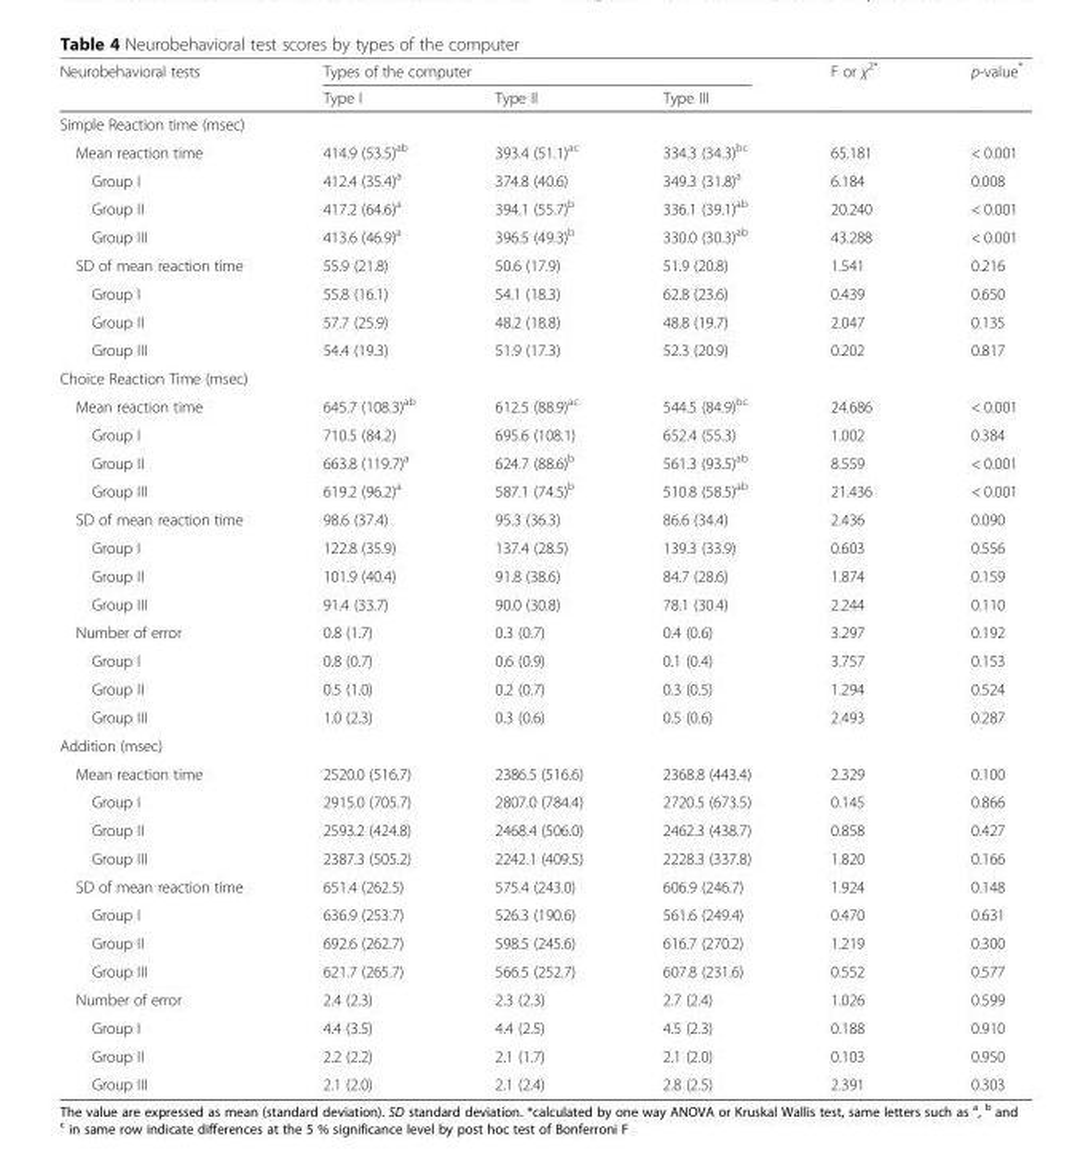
<table><thead><tr><td rowspan="2">Neurobehavioral tests</td><td colspan="3">Types of the computer</td><td rowspan="2">F or χ<sup>2*</sup></td><td rowspan="2">p-value*</td></tr><tr><td>Type I</td><td>Type II</td><td>Type III</td></tr></thead><tbody><tr><td colspan="6">Simple Reaction time (msec)</td></tr><tr><td>Mean reaction time</td><td>414.9 (53.5)<sup>ab</sup></td><td>393.4 (51.1)<sup>ac</sup></td><td>334.3 (34.3)<sup>bc</sup></td><td>65.181</td><td>&lt; 0.001</td></tr><tr><td>Group I</td><td>412.4 (35.4)<sup>a</sup></td><td>374.8 (40.6)</td><td>349.3 (31.8)<sup>a</sup></td><td>6.184</td><td>0.008</td></tr><tr><td>Group II</td><td>417.2 (64.6)<sup>a</sup></td><td>394.1 (55.7)<sup>b</sup></td><td>336.1 (39.1)<sup>ab</sup></td><td>20.240</td><td>&lt; 0.001</td></tr><tr><td>Group III</td><td>413.6 (46.9)<sup>a</sup></td><td>396.5 (49.3)<sup>b</sup></td><td>330.0 (30.3)<sup>ab</sup></td><td>43.288</td><td>&lt; 0.001</td></tr><tr><td>SD of mean reaction time</td><td>55.9 (21.8)</td><td>50.6 (17.9)</td><td>51.9 (20.8)</td><td>1.541</td><td>0.216</td></tr><tr><td>Group I</td><td>55.8 (16.1)</td><td>54.1 (18.3)</td><td>62.8 (23.6)</td><td>0.439</td><td>0.650</td></tr><tr><td>Group II</td><td>57.7 (25.9)</td><td>48.2 (18.8)</td><td>48.8 (19.7)</td><td>2.047</td><td>0.135</td></tr><tr><td>Group III</td><td>54.4 (19.3)</td><td>51.9 (17.3)</td><td>52.3 (20.9)</td><td>0.202</td><td>0.817</td></tr><tr><td colspan="6">Choice Reaction Time (msec)</td></tr><tr><td>Mean reaction time</td><td>645.7 (108.3)<sup>ab</sup></td><td>612.5 (88.9)<sup>ac</sup></td><td>544.5 (84.9)<sup>bc</sup></td><td>24.686</td><td>&lt; 0.001</td></tr><tr><td>Group I</td><td>710.5 (84.2)</td><td>695.6 (108.1)</td><td>652.4 (55.3)</td><td>1.002</td><td>0.384</td></tr><tr><td>Group II</td><td>663.8 (119.7)<sup>a</sup></td><td>624.7 (88.6)<sup>b</sup></td><td>561.3 (93.5)<sup>ab</sup></td><td>8.559</td><td>&lt; 0.001</td></tr><tr><td>Group III</td><td>619.2 (96.2)<sup>a</sup></td><td>587.1 (74.5)<sup>b</sup></td><td>510.8 (58.5)<sup>ab</sup></td><td>21.436</td><td>&lt; 0.001</td></tr><tr><td>SD of mean reaction time</td><td>98.6 (37.4)</td><td>95.3 (36.3)</td><td>86.6 (34.4)</td><td>2.436</td><td>0.090</td></tr><tr><td>Group I</td><td>122.8 (35.9)</td><td>137.4 (28.5)</td><td>139.3 (33.9)</td><td>0.603</td><td>0.556</td></tr><tr><td>Group II</td><td>101.9 (40.4)</td><td>91.8 (38.6)</td><td>84.7 (28.6)</td><td>1.874</td><td>0.159</td></tr><tr><td>Group III</td><td>91.4 (33.7)</td><td>90.0 (30.8)</td><td>78.1 (30.4)</td><td>2.244</td><td>0.110</td></tr><tr><td>Number of error</td><td>0.8 (1.7)</td><td>0.3 (0.7)</td><td>0.4 (0.6)</td><td>3.297</td><td>0.192</td></tr><tr><td>Group I</td><td>0.8 (0.7)</td><td>0.6 (0.9)</td><td>0.1 (0.4)</td><td>3.757</td><td>0.153</td></tr><tr><td>Group II</td><td>0.5 (1.0)</td><td>0.2 (0.7)</td><td>0.3 (0.5)</td><td>1.294</td><td>0.524</td></tr><tr><td>Group III</td><td>1.0 (2.3)</td><td>0.3 (0.6)</td><td>0.5 (0.6)</td><td>2.493</td><td>0.287</td></tr><tr><td colspan="6">Addition (msec)</td></tr><tr><td>Mean reaction time</td><td>2520.0 (516.7)</td><td>2386.5 (516.6)</td><td>2368.8 (443.4)</td><td>2.329</td><td>0.100</td></tr><tr><td>Group I</td><td>2915.0 (705.7)</td><td>2807.0 (784.4)</td><td>2720.5 (673.5)</td><td>0.145</td><td>0.866</td></tr><tr><td>Group II</td><td>2593.2 (424.8)</td><td>2468.4 (506.0)</td><td>2462.3 (438.7)</td><td>0.858</td><td>0.427</td></tr><tr><td>Group III</td><td>2387.3 (505.2)</td><td>2242.1 (409.5)</td><td>2228.3 (337.8)</td><td>1.820</td><td>0.166</td></tr><tr><td>SD of mean reaction time</td><td>651.4 (262.5)</td><td>575.4 (243.0)</td><td>606.9 (246.7)</td><td>1.924</td><td>0.148</td></tr><tr><td>Group I</td><td>636.9 (253.7)</td><td>526.3 (190.6)</td><td>561.6 (249.4)</td><td>0.470</td><td>0.631</td></tr><tr><td>Group II</td><td>692.6 (262.7)</td><td>598.5 (245.6)</td><td>616.7 (270.2)</td><td>1.219</td><td>0.300</td></tr><tr><td>Group III</td><td>621.7 (265.7)</td><td>566.5 (252.7)</td><td>607.8 (231.6)</td><td>0.552</td><td>0.577</td></tr><tr><td>Number of error</td><td>2.4 (2.3)</td><td>2.3 (2.3)</td><td>2.7 (2.4)</td><td>1.026</td><td>0.599</td></tr><tr><td>Group I</td><td>4.4 (3.5)</td><td>4.4 (2.5)</td><td>4.5 (2.3)</td><td>0.188</td><td>0.910</td></tr><tr><td>Group II</td><td>2.2 (2.2)</td><td>2.1 (1.7)</td><td>2.1 (2.0)</td><td>0.103</td><td>0.950</td></tr><tr><td>Group III</td><td>2.1 (2.0)</td><td>2.1 (2.4)</td><td>2.8 (2.5)</td><td>2.391</td><td>0.303</td></tr></tbody></table>